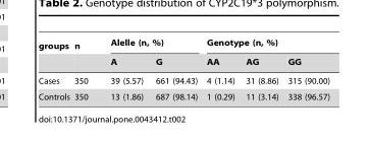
<table><thead><tr><td rowspan="2">groups</td><td rowspan="2">n</td><td colspan="2">Alelle (n, %)</td><td colspan="3">Genotype (n, %)</td></tr><tr><td>A</td><td>G</td><td>AA</td><td>AG</td><td>GG</td></tr></thead><tbody><tr><td>Cases</td><td>350</td><td>39 (5.57)</td><td>661 (94.43)</td><td>4 (1.14)</td><td>31 (8.86)</td><td>315 (90.00)</td></tr><tr><td>Controls</td><td>350</td><td>13 (1.86)</td><td>687 (98.14)</td><td>1 (0.29)</td><td>11 (3.14)</td><td>338 (96.57)</td></tr></tbody></table>